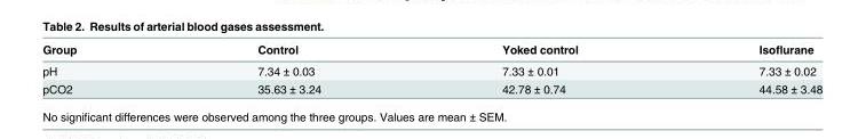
<table><thead><tr><td>Group</td><td>Control</td><td>Yoked control</td><td>Isoflurane</td></tr></thead><tbody><tr><td>pH</td><td>7.34 ± 0.03</td><td>7.33 ± 0.01</td><td>7.33 ± 0.02</td></tr><tr><td>pCO2</td><td>35.63 ± 3.24</td><td>42.78 ± 0.74</td><td>44.58 ± 3.48</td></tr></tbody></table>